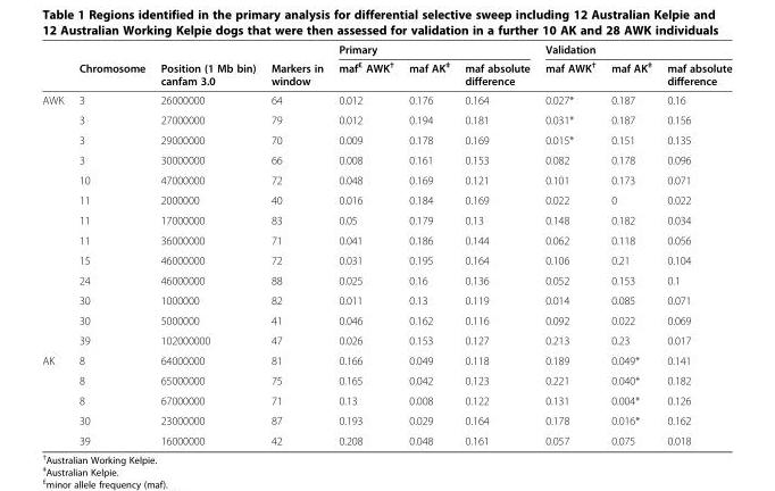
<table><thead><tr><td rowspan="2"></td><td rowspan="2">Chromosome</td><td rowspan="2">Position (1 Mb bin) canfam 3.0</td><td rowspan="2">Markers in window</td><td colspan="3">Primary</td><td colspan="3">Validation</td></tr><tr><td>maf<sup>£</sup> AWK<sup>†</sup></td><td>maf AK<sup>‡</sup></td><td>maf absolute difference</td><td>maf AWK<sup>†</sup></td><td>maf AK<sup>‡</sup></td><td>maf absolute difference</td></tr></thead><tbody><tr><td rowspan="13">AWK</td><td>3</td><td>26000000</td><td>64</td><td>0.012</td><td>0.176</td><td>0.164</td><td>0.027*</td><td>0.187</td><td>0.16</td></tr><tr><td>3</td><td>27000000</td><td>79</td><td>0.012</td><td>0.194</td><td>0.181</td><td>0.031*</td><td>0.187</td><td>0.156</td></tr><tr><td>3</td><td>29000000</td><td>70</td><td>0.009</td><td>0.178</td><td>0.169</td><td>0.015*</td><td>0.151</td><td>0.135</td></tr><tr><td>3</td><td>30000000</td><td>66</td><td>0.008</td><td>0.161</td><td>0.153</td><td>0.082</td><td>0.178</td><td>0.096</td></tr><tr><td>10</td><td>47000000</td><td>72</td><td>0.048</td><td>0.169</td><td>0.121</td><td>0.101</td><td>0.173</td><td>0.071</td></tr><tr><td>11</td><td>2000000</td><td>40</td><td>0.016</td><td>0.184</td><td>0.169</td><td>0.022</td><td>0</td><td>0.022</td></tr><tr><td>11</td><td>17000000</td><td>83</td><td>0.05</td><td>0.179</td><td>0.13</td><td>0.148</td><td>0.182</td><td>0.034</td></tr><tr><td>11</td><td>36000000</td><td>71</td><td>0.041</td><td>0.186</td><td>0.144</td><td>0.062</td><td>0.118</td><td>0.056</td></tr><tr><td>15</td><td>46000000</td><td>72</td><td>0.031</td><td>0.195</td><td>0.164</td><td>0.106</td><td>0.21</td><td>0.104</td></tr><tr><td>24</td><td>46000000</td><td>88</td><td>0.025</td><td>0.16</td><td>0.136</td><td>0.052</td><td>0.153</td><td>0.1</td></tr><tr><td>30</td><td>1000000</td><td>82</td><td>0.011</td><td>0.13</td><td>0.119</td><td>0.014</td><td>0.085</td><td>0.071</td></tr><tr><td>30</td><td>5000000</td><td>41</td><td>0.046</td><td>0.162</td><td>0.116</td><td>0.092</td><td>0.022</td><td>0.069</td></tr><tr><td>39</td><td>102000000</td><td>47</td><td>0.026</td><td>0.153</td><td>0.127</td><td>0.213</td><td>0.23</td><td>0.017</td></tr><tr><td rowspan="5">AK</td><td>8</td><td>64000000</td><td>81</td><td>0.166</td><td>0.049</td><td>0.118</td><td>0.189</td><td>0.049*</td><td>0.141</td></tr><tr><td>8</td><td>65000000</td><td>75</td><td>0.165</td><td>0.042</td><td>0.123</td><td>0.221</td><td>0.040*</td><td>0.182</td></tr><tr><td>8</td><td>67000000</td><td>71</td><td>0.13</td><td>0.008</td><td>0.122</td><td>0.131</td><td>0.004*</td><td>0.126</td></tr><tr><td>30</td><td>23000000</td><td>87</td><td>0.193</td><td>0.029</td><td>0.164</td><td>0.178</td><td>0.016*</td><td>0.162</td></tr><tr><td>39</td><td>16000000</td><td>42</td><td>0.208</td><td>0.048</td><td>0.161</td><td>0.057</td><td>0.075</td><td>0.018</td></tr></tbody></table>